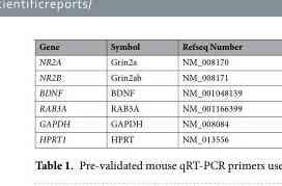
<table><thead><tr><td>Gene</td><td>Symbol</td><td>Refseq Number</td></tr></thead><tbody><tr><td>NR2A</td><td>Grin2a</td><td>NM_008170</td></tr><tr><td>NR2B</td><td>Grin2ab</td><td>NM_008171</td></tr><tr><td>BDNF</td><td>BDNF</td><td>NM_001048139</td></tr><tr><td>RAB3A</td><td>RAB3A</td><td>NM_001166399</td></tr><tr><td>GAPDH</td><td>GAPDH</td><td>NM_008084</td></tr><tr><td>HPRT1</td><td>HPRT</td><td>NM_013556</td></tr></tbody></table>